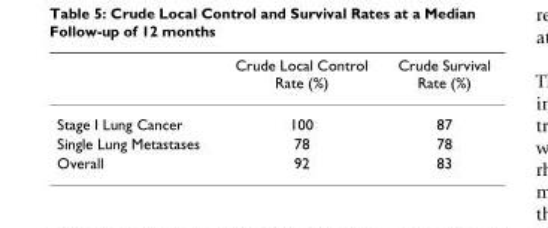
<table><thead><tr><td></td><td>Crude Local Control Rate (%)</td><td>Crude Survival Rate (%)</td></tr></thead><tbody><tr><td>Stage I Lung Cancer</td><td>100</td><td>87</td></tr><tr><td>Single Lung Metastases</td><td>78</td><td>78</td></tr><tr><td>Overall</td><td>92</td><td>83</td></tr></tbody></table>